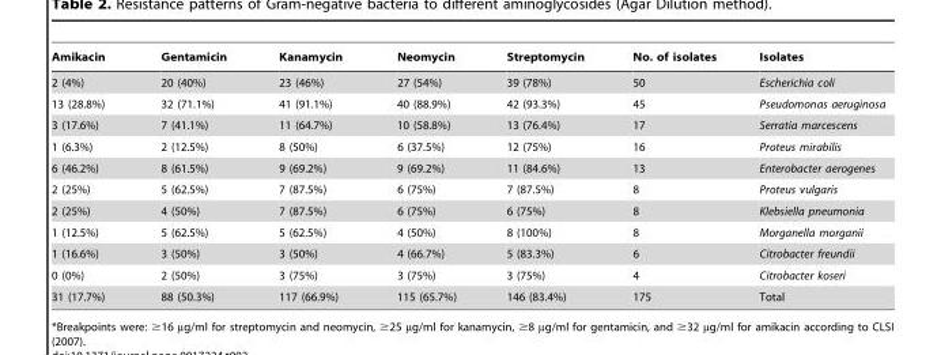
<table><thead><tr><td>Amikacin</td><td>Gentamicin</td><td>Kanamycin</td><td>Neomycin</td><td>Streptomycin</td><td>No. of isolates</td><td>Isolates</td></tr></thead><tbody><tr><td>2 (4%)</td><td>20 (40%)</td><td>23 (46%)</td><td>27 (54%)</td><td>39 (78%)</td><td>50</td><td>Escherichia coli</td></tr><tr><td>13 (28.8%)</td><td>32 (71.1%)</td><td>41 (91.1%)</td><td>40 (88.9%)</td><td>42 (93.3%)</td><td>45</td><td>Pseudomonas aeruginosa</td></tr><tr><td>3 (17.6%)</td><td>7 (41.1%)</td><td>11 (64.7%)</td><td>10 (58.8%)</td><td>13 (76.4%)</td><td>17</td><td>Serratia marcescens</td></tr><tr><td>1 (6.3%)</td><td>2 (12.5%)</td><td>8 (50%)</td><td>6 (37.5%)</td><td>12 (75%)</td><td>16</td><td>Proteus mirabilis</td></tr><tr><td>6 (46.2%)</td><td>8 (61.5%)</td><td>9 (69.2%)</td><td>9 (69.2%)</td><td>11 (84.6%)</td><td>13</td><td>Enterobacter aerogenes</td></tr><tr><td>2 (25%)</td><td>5 (62.5%)</td><td>7 (87.5%)</td><td>6 (75%)</td><td>7 (87.5%)</td><td>8</td><td>Proteus vulgaris</td></tr><tr><td>2 (25%)</td><td>4 (50%)</td><td>7 (87.5%)</td><td>6 (75%)</td><td>6 (75%)</td><td>8</td><td>Klebsiella pneumonia</td></tr><tr><td>1 (12.5%)</td><td>5 (62.5%)</td><td>5 (62.5%)</td><td>4 (50%)</td><td>8 (100%)</td><td>8</td><td>Morganella morganii</td></tr><tr><td>1 (16.6%)</td><td>3 (50%)</td><td>3 (50%)</td><td>4 (66.7%)</td><td>5 (83.3%)</td><td>6</td><td>Citrobacter freundii</td></tr><tr><td>0 (0%)</td><td>2 (50%)</td><td>3 (75%)</td><td>3 (75%)</td><td>3 (75%)</td><td>4</td><td>Citrobacter koseri</td></tr><tr><td>31 (17.7%)</td><td>88 (50.3%)</td><td>117 (66.9%)</td><td>115 (65.7%)</td><td>146 (83.4%)</td><td>175</td><td>Total</td></tr></tbody></table>